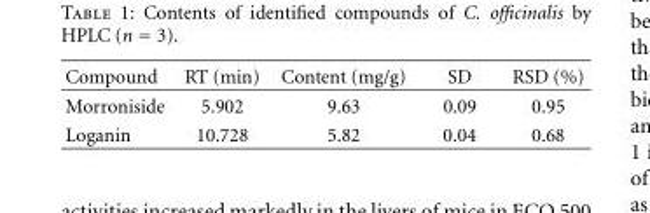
<table><thead><tr><td>Compound</td><td>RT (min)</td><td>Content (mg/g)</td><td>SD</td><td>RSD (%)</td></tr></thead><tbody><tr><td>Morroniside</td><td>5.902</td><td>9.63</td><td>0.09</td><td>0.95</td></tr><tr><td>Loganin</td><td>10.728</td><td>5.82</td><td>0.04</td><td>0.68</td></tr></tbody></table>